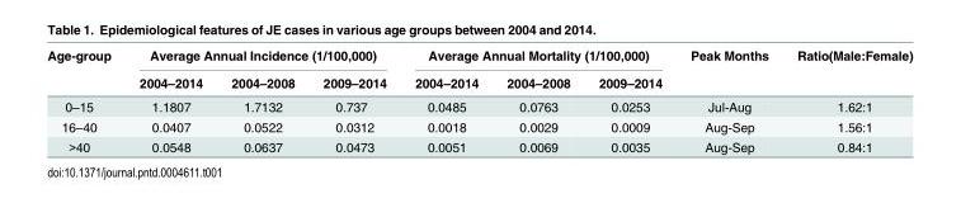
<table><thead><tr><td rowspan="2">Age-group</td><td colspan="3">Average Annual Incidence (1/100,000)</td><td colspan="3">Average Annual Mortality (1/100,000)</td><td rowspan="2">Peak Months</td><td rowspan="2">Ratio(Male:Female)</td></tr><tr><td>2004–2014</td><td>2004–2008</td><td>2009–2014</td><td>2004–2014</td><td>2004–2008</td><td>2009–2014</td></tr></thead><tbody><tr><td>0–15</td><td>1.1807</td><td>1.7132</td><td>0.737</td><td>0.0485</td><td>0.0763</td><td>0.0253</td><td>Jul-Aug</td><td>1.62:1</td></tr><tr><td>16–40</td><td>0.0407</td><td>0.0522</td><td>0.0312</td><td>0.0018</td><td>0.0029</td><td>0.0009</td><td>Aug-Sep</td><td>1.56:1</td></tr><tr><td>&gt;40</td><td>0.0548</td><td>0.0637</td><td>0.0473</td><td>0.0051</td><td>0.0069</td><td>0.0035</td><td>Aug-Sep</td><td>0.84:1</td></tr></tbody></table>